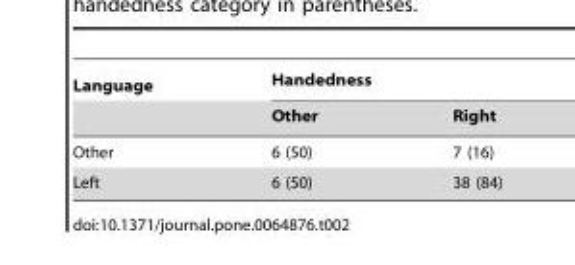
<table><thead><tr><td rowspan="2">Language</td><td colspan="2">Handedness</td></tr><tr><td>Other</td><td>Right</td></tr></thead><tbody><tr><td>Other</td><td>6 (50)</td><td>7 (16)</td></tr><tr><td>Left</td><td>6 (50)</td><td>38 (84)</td></tr></tbody></table>